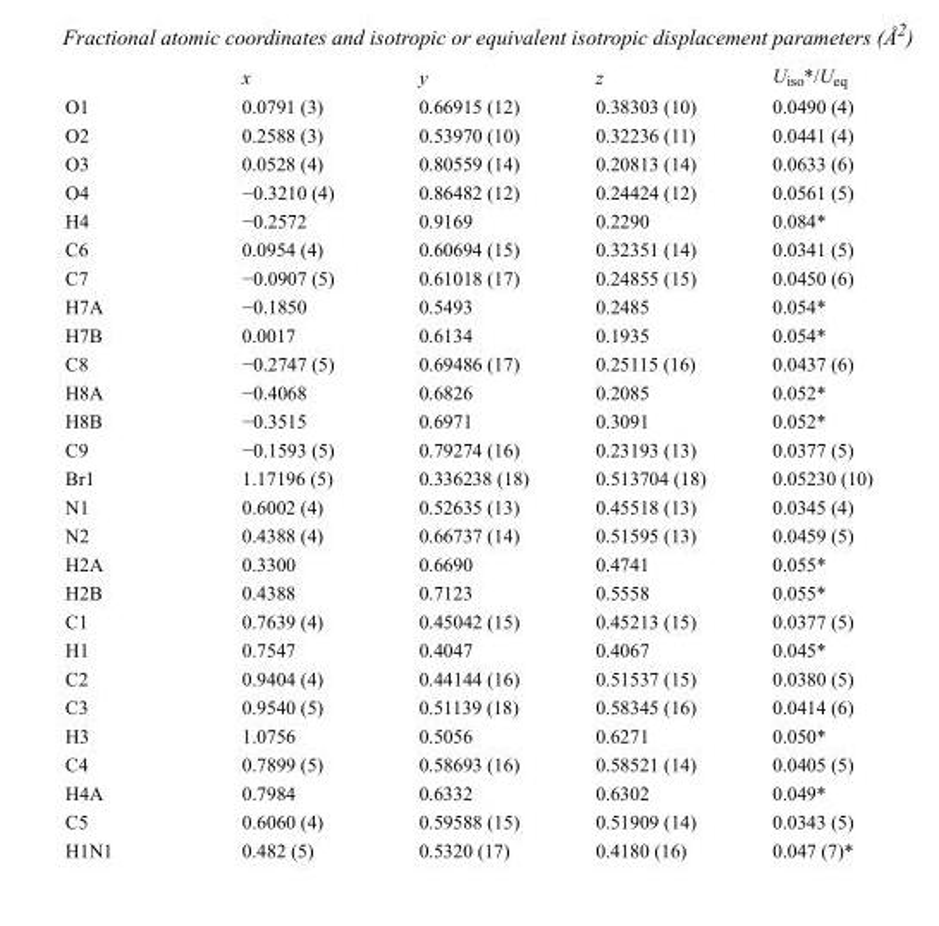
<table><thead><tr><td></td><td>x</td><td>y</td><td>z</td><td>U<sub>iso</sub>*/U<sub>eq</sub></td></tr></thead><tbody><tr><td>O1</td><td>0.0791 (3)</td><td>0.66915 (12)</td><td>0.38303 (10)</td><td>0.0490 (4)</td></tr><tr><td>O2</td><td>0.2588 (3)</td><td>0.53970 (10)</td><td>0.32236 (11)</td><td>0.0441 (4)</td></tr><tr><td>O3</td><td>0.0528 (4)</td><td>0.80559 (14)</td><td>0.20813 (14)</td><td>0.0633 (6)</td></tr><tr><td>O4</td><td>−0.3210 (4)</td><td>0.86482 (12)</td><td>0.24424 (12)</td><td>0.0561 (5)</td></tr><tr><td>H4</td><td>−0.2572</td><td>0.9169</td><td>0.2290</td><td>0.084*</td></tr><tr><td>C6</td><td>0.0954 (4)</td><td>0.60694 (15)</td><td>0.32351 (14)</td><td>0.0341 (5)</td></tr><tr><td>C7</td><td>−0.0907 (5)</td><td>0.61018 (17)</td><td>0.24855 (15)</td><td>0.0450 (6)</td></tr><tr><td>H7A</td><td>−0.1850</td><td>0.5493</td><td>0.2485</td><td>0.054*</td></tr><tr><td>H7B</td><td>0.0017</td><td>0.6134</td><td>0.1935</td><td>0.054*</td></tr><tr><td>C8</td><td>−0.2747 (5)</td><td>0.69486 (17)</td><td>0.25115 (16)</td><td>0.0437 (6)</td></tr><tr><td>H8A</td><td>−0.4068</td><td>0.6826</td><td>0.2085</td><td>0.052*</td></tr><tr><td>H8B</td><td>−0.3515</td><td>0.6971</td><td>0.3091</td><td>0.052*</td></tr><tr><td>C9</td><td>−0.1593 (5)</td><td>0.79274 (16)</td><td>0.23193 (13)</td><td>0.0377 (5)</td></tr><tr><td>Br1</td><td>1.17196 (5)</td><td>0.336238 (18)</td><td>0.513704 (18)</td><td>0.05230 (10)</td></tr><tr><td>N1</td><td>0.6002 (4)</td><td>0.52635 (13)</td><td>0.45518 (13)</td><td>0.0345 (4)</td></tr><tr><td>N2</td><td>0.4388 (4)</td><td>0.66737 (14)</td><td>0.51595 (13)</td><td>0.0459 (5)</td></tr><tr><td>H2A</td><td>0.3300</td><td>0.6690</td><td>0.4741</td><td>0.055*</td></tr><tr><td>H2B</td><td>0.4388</td><td>0.7123</td><td>0.5558</td><td>0.055*</td></tr><tr><td>C1</td><td>0.7639 (4)</td><td>0.45042 (15)</td><td>0.45213 (15)</td><td>0.0377 (5)</td></tr><tr><td>H1</td><td>0.7547</td><td>0.4047</td><td>0.4067</td><td>0.045*</td></tr><tr><td>C2</td><td>0.9404 (4)</td><td>0.44144 (16)</td><td>0.51537 (15)</td><td>0.0380 (5)</td></tr><tr><td>C3</td><td>0.9540 (5)</td><td>0.51139 (18)</td><td>0.58345 (16)</td><td>0.0414 (6)</td></tr><tr><td>H3</td><td>1.0756</td><td>0.5056</td><td>0.6271</td><td>0.050*</td></tr><tr><td>C4</td><td>0.7899 (5)</td><td>0.58693 (16)</td><td>0.58521 (14)</td><td>0.0405 (5)</td></tr><tr><td>H4A</td><td>0.7984</td><td>0.6332</td><td>0.6302</td><td>0.049*</td></tr><tr><td>C5</td><td>0.6060 (4)</td><td>0.59588 (15)</td><td>0.51909 (14)</td><td>0.0343 (5)</td></tr><tr><td>H1N1</td><td>0.482 (5)</td><td>0.5320 (17)</td><td>0.4180 (16)</td><td>0.047 (7)*</td></tr></tbody></table>